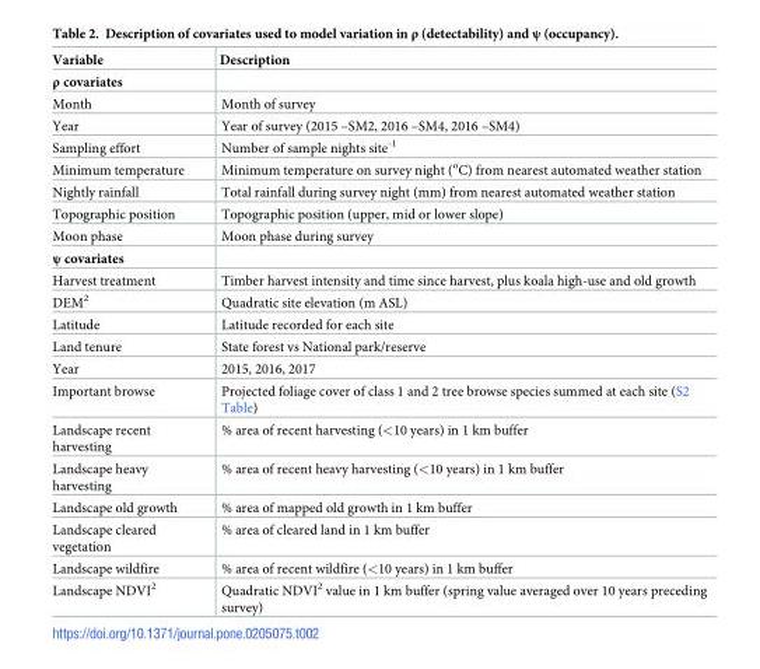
<table><thead><tr><td>Variable</td><td>Description</td></tr></thead><tbody><tr><td colspan="2">ρ covariates</td></tr><tr><td>Month</td><td>Month of survey</td></tr><tr><td>Year</td><td>Year of survey (2015 –SM2, 2016 –SM4, 2016 –SM4)</td></tr><tr><td>Sampling effort</td><td>Number of sample nights site<sup>-1</sup></td></tr><tr><td>Minimum temperature</td><td>Minimum temperature on survey night (<sup>o</sup>C) from nearest automated weather station</td></tr><tr><td>Nightly rainfall</td><td>Total rainfall during survey night (mm) from nearest automated weather station</td></tr><tr><td>Topographic position</td><td>Topographic position (upper, mid or lower slope)</td></tr><tr><td>Moon phase</td><td>Moon phase during survey</td></tr><tr><td colspan="2">ψ covariates</td></tr><tr><td>Harvest treatment</td><td>Timber harvest intensity and time since harvest, plus koala high-use and old growth</td></tr><tr><td>DEM<sup>2</sup></td><td>Quadratic site elevation (m ASL)</td></tr><tr><td>Latitude</td><td>Latitude recorded for each site</td></tr><tr><td>Land tenure</td><td>State forest vs National park/reserve</td></tr><tr><td>Year</td><td>2015, 2016, 2017</td></tr><tr><td>Important browse</td><td>Projected foliage cover of class 1 and 2 tree browse species summed at each site (S2 Table)</td></tr><tr><td>Landscape recent harvesting</td><td>% area of recent harvesting (&lt;10 years) in 1 km buffer</td></tr><tr><td>Landscape heavy harvesting</td><td>% area of recent heavy harvesting (&lt;10 years) in 1 km buffer</td></tr><tr><td>Landscape old growth</td><td>% area of mapped old growth in 1 km buffer</td></tr><tr><td>Landscape cleared vegetation</td><td>% area of cleared land in 1 km buffer</td></tr><tr><td>Landscape wildfire</td><td>% area of recent wildfire (&lt;10 years) in 1 km buffer</td></tr><tr><td>Landscape NDVI<sup>2</sup></td><td>Quadratic NDVI<sup>2</sup> value in 1 km buffer (spring value averaged over 10 years preceding survey)</td></tr></tbody></table>